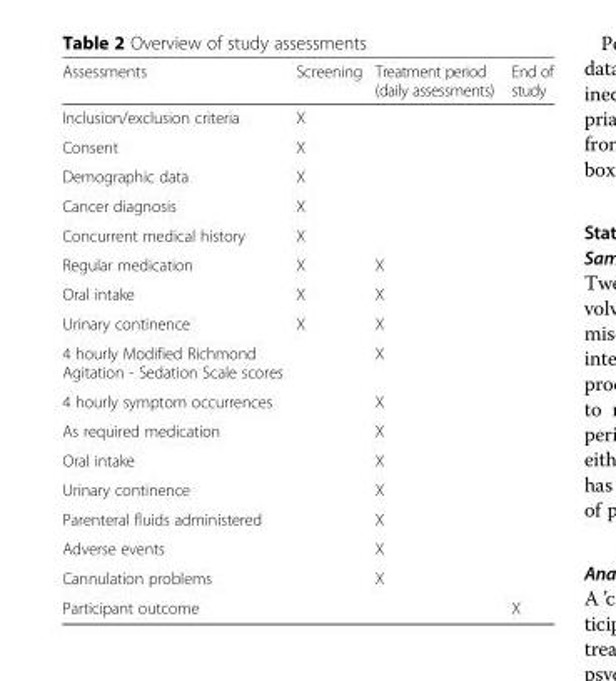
<table><thead><tr><td>Assessments</td><td>Screening</td><td>Treatment period (daily assessments)</td><td>End of study</td></tr></thead><tbody><tr><td>Inclusion/exclusion criteria</td><td>X</td><td></td><td></td></tr><tr><td>Consent</td><td>X</td><td></td><td></td></tr><tr><td>Demographic data</td><td>X</td><td></td><td></td></tr><tr><td>Cancer diagnosis</td><td>X</td><td></td><td></td></tr><tr><td>Concurrent medical history</td><td>X</td><td></td><td></td></tr><tr><td>Regular medication</td><td>X</td><td>X</td><td></td></tr><tr><td>Oral intake</td><td>X</td><td>X</td><td></td></tr><tr><td>Urinary continence</td><td>X</td><td>X</td><td></td></tr><tr><td>4 hourly Modified Richmond Agitation - Sedation Scale scores</td><td></td><td>X</td><td></td></tr><tr><td>4 hourly symptom occurrences</td><td></td><td>X</td><td></td></tr><tr><td>As required medication</td><td></td><td>X</td><td></td></tr><tr><td>Oral intake</td><td></td><td>X</td><td></td></tr><tr><td>Urinary continence</td><td></td><td>X</td><td></td></tr><tr><td>Parenteral fluids administered</td><td></td><td>X</td><td></td></tr><tr><td>Adverse events</td><td></td><td>X</td><td></td></tr><tr><td>Cannulation problems</td><td></td><td>X</td><td></td></tr><tr><td>Participant outcome</td><td></td><td></td><td>X</td></tr></tbody></table>